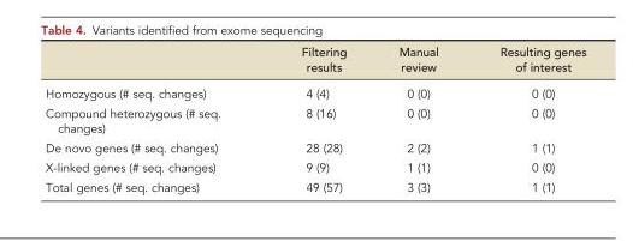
<table><thead><tr><td></td><td>Filtering results</td><td>Manual review</td><td>Resulting genes of interest</td></tr></thead><tbody><tr><td>Homozygous (# seq. changes)</td><td>4 (4)</td><td>0 (0)</td><td>0 (0)</td></tr><tr><td>Compound heterozygous (# seq. changes)</td><td>8 (16)</td><td>0 (0)</td><td>0 (0)</td></tr><tr><td>De novo genes (# seq. changes)</td><td>28 (28)</td><td>2 (2)</td><td>1 (1)</td></tr><tr><td>X-linked genes (# seq. changes)</td><td>9 (9)</td><td>1 (1)</td><td>0 (0)</td></tr><tr><td>Total genes (# seq. changes)</td><td>49 (57)</td><td>3 (3)</td><td>1 (1)</td></tr></tbody></table>